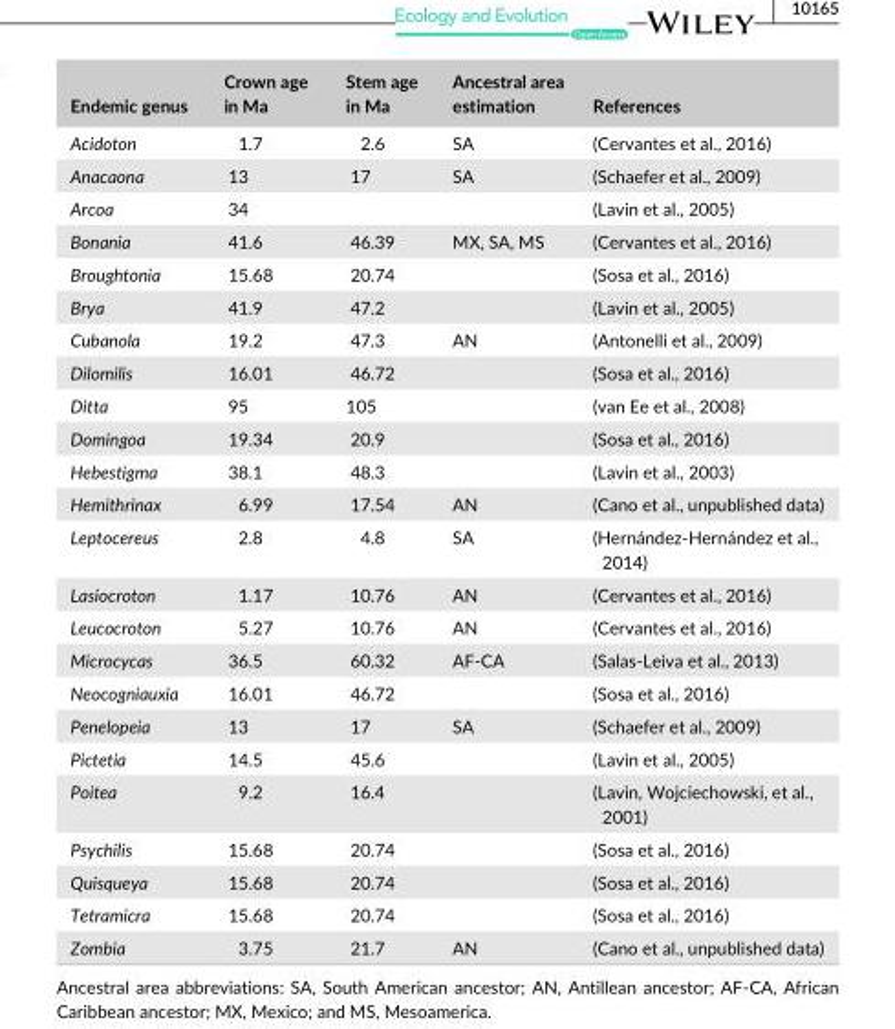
<table><thead><tr><td>Endemic genus</td><td>Crown age in Ma</td><td>Stem age in Ma</td><td>Ancestral area estimation</td><td>References</td></tr></thead><tbody><tr><td>Acidoton</td><td>1.7</td><td>2.6</td><td>SA</td><td>(Cervantes et al., 2016)</td></tr><tr><td>Anacaona</td><td>13</td><td>17</td><td>SA</td><td>(Schaefer et al., 2009)</td></tr><tr><td>Arcoa</td><td>34</td><td></td><td></td><td>(Lavin et al., 2005)</td></tr><tr><td>Bonania</td><td>41.6</td><td>46.39</td><td>MX, SA, MS</td><td>(Cervantes et al., 2016)</td></tr><tr><td>Broughtonia</td><td>15.68</td><td>20.74</td><td></td><td>(Sosa et al., 2016)</td></tr><tr><td>Brya</td><td>41.9</td><td>47.2</td><td></td><td>(Lavin et al., 2005)</td></tr><tr><td>Cubanola</td><td>19.2</td><td>47.3</td><td>AN</td><td>(Antonelli et al., 2009)</td></tr><tr><td>Dilomilis</td><td>16.01</td><td>46.72</td><td></td><td>(Sosa et al., 2016)</td></tr><tr><td>Ditta</td><td>95</td><td>105</td><td></td><td>(van Ee et al., 2008)</td></tr><tr><td>Domingoa</td><td>19.34</td><td>20.9</td><td></td><td>(Sosa et al., 2016)</td></tr><tr><td>Hebestigma</td><td>38.1</td><td>48.3</td><td></td><td>(Lavin et al., 2003)</td></tr><tr><td>Hemithrinax</td><td>6.99</td><td>17.54</td><td>AN</td><td>(Cano et al., unpublished data)</td></tr><tr><td>Leptocereus</td><td>2.8</td><td>4.8</td><td>SA</td><td>(Hernández- Hernández et al., 2014)</td></tr><tr><td>Lasiocroton</td><td>1.17</td><td>10.76</td><td>AN</td><td>(Cervantes et al., 2016)</td></tr><tr><td>Leucocroton</td><td>5.27</td><td>10.76</td><td>AN</td><td>(Cervantes et al., 2016)</td></tr><tr><td>Microcycas</td><td>36.5</td><td>60.32</td><td>AF- CA</td><td>(Salas- Leiva et al., 2013)</td></tr><tr><td>Neocogniauxia</td><td>16.01</td><td>46.72</td><td></td><td>(Sosa et al., 2016)</td></tr><tr><td>Penelopeia</td><td>13</td><td>17</td><td>SA</td><td>(Schaefer et al., 2009)</td></tr><tr><td>Pictetia</td><td>14.5</td><td>45.6</td><td></td><td>(Lavin et al., 2005)</td></tr><tr><td>Poitea</td><td>9.2</td><td>16.4</td><td></td><td>(Lavin, Wojciechowski, et al., 2001)</td></tr><tr><td>Psychilis</td><td>15.68</td><td>20.74</td><td></td><td>(Sosa et al., 2016)</td></tr><tr><td>Quisqueya</td><td>15.68</td><td>20.74</td><td></td><td>(Sosa et al., 2016)</td></tr><tr><td>Tetramicra</td><td>15.68</td><td>20.74</td><td></td><td>(Sosa et al., 2016)</td></tr><tr><td>Zombia</td><td>3.75</td><td>21.7</td><td>AN</td><td>(Cano et al., unpublished data)</td></tr></tbody></table>